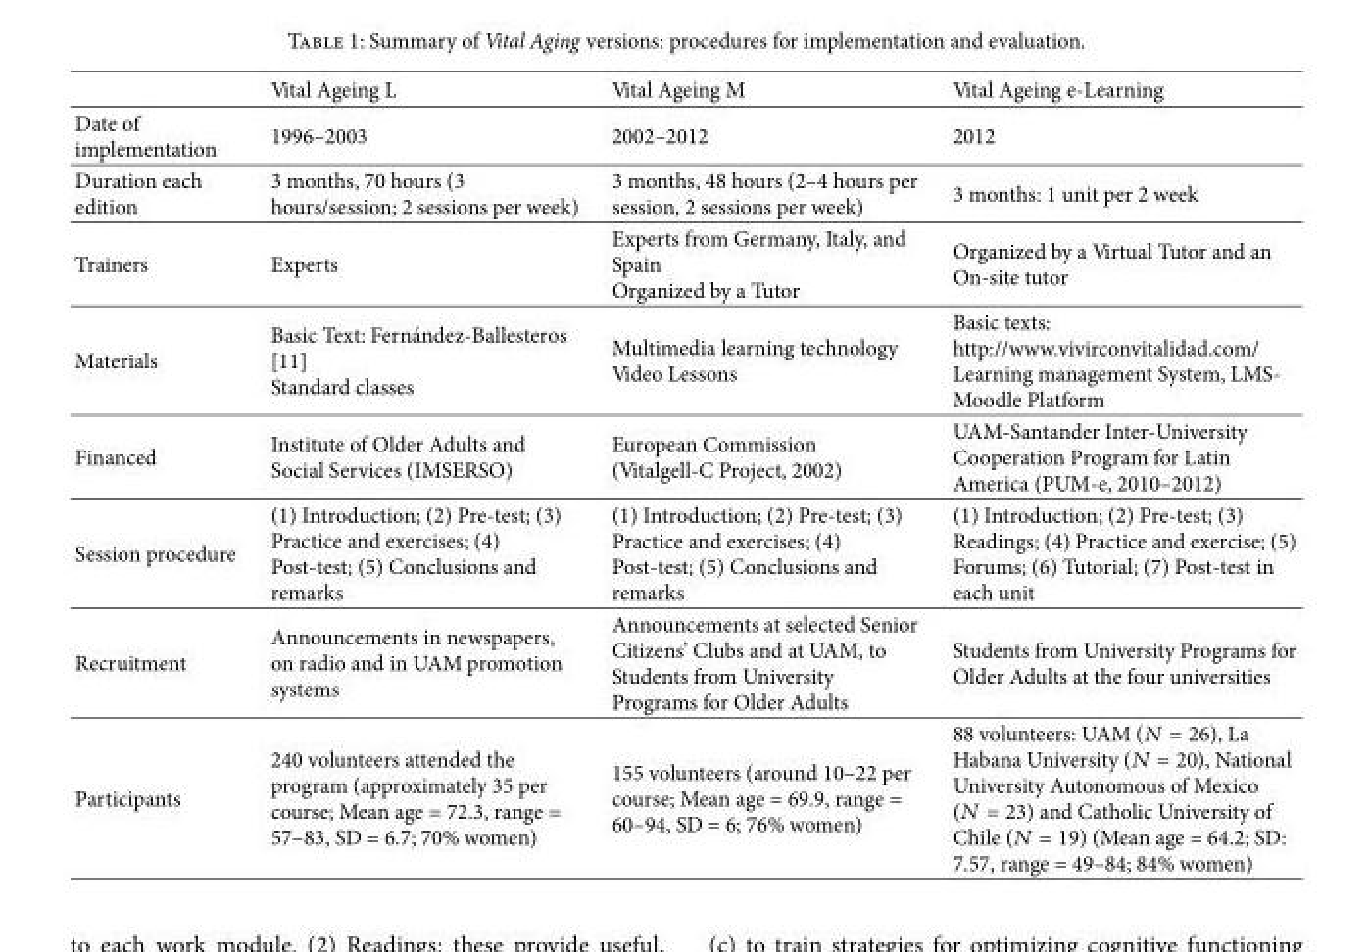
<table><thead><tr><td></td><td>Vital Ageing L</td><td>Vital Ageing M</td><td>Vital Ageing e-Learning</td></tr></thead><tbody><tr><td>Date of implementation</td><td>1996–2003</td><td>2002–2012</td><td>2012</td></tr><tr><td>Duration each edition</td><td>3 months, 70 hours (3 hours/session; 2 sessions per week)</td><td>3 months, 48 hours (2–4 hours per session, 2 sessions per week)</td><td>3 months: 1 unit per 2 week</td></tr><tr><td>Trainers</td><td>Experts</td><td>Experts from Germany, Italy, and Spain Organized by a Tutor</td><td>Organized by a Virtual Tutor and an On-site tutor</td></tr><tr><td>Materials</td><td>Basic Text: Fernández-Ballesteros [11] Standard classes</td><td>Multimedia learning technology Video Lessons</td><td>Basic texts: http://www.vivirconvitalidad.com/ Learning management System, LMS- Moodle Platform</td></tr><tr><td>Financed</td><td>Institute of Older Adults and Social Services (IMSERSO)</td><td>European Commission (Vitalgell-C Project, 2002)</td><td>UAM-Santander Inter-University Cooperation Program for Latin America (PUM-e, 2010–2012)</td></tr><tr><td>Session procedure</td><td>(1) Introduction; (2) Pre-test; (3) Practice and exercises; (4) Post-test; (5) Conclusions and remarks</td><td>(1) Introduction; (2) Pre-test; (3) Practice and exercises; (4) Post-test; (5) Conclusions and remarks</td><td>(1) Introduction; (2) Pre-test; (3) Readings; (4) Practice and exercise; (5) Forums; (6) Tutorial; (7) Post-test in each unit</td></tr><tr><td>Recruitment</td><td>Announcements in newspapers, on radio and in UAM promotion systems</td><td>Announcements at selected Senior Citizens’ Clubs and at UAM, to Students from University Programs for Older Adults</td><td>Students from University Programs for Older Adults at the four universities</td></tr><tr><td>Participants</td><td>240 volunteers attended the program (approximately 35 per course; Mean age = 72.3, range = 57–83, SD = 6.7; 70% women)</td><td>155 volunteers (around 10–22 per course; Mean age = 69.9, range = 60–94, SD = 6; 76% women)</td><td>88 volunteers: UAM (𝑁𝑁 𝑁 𝑁𝑁), La Habana University (𝑁𝑁 𝑁 𝑁𝑁), National University Autonomous of Mexico (𝑁𝑁 𝑁 𝑁𝑁) and Catholic University of Chile (𝑁𝑁 𝑁 𝑁𝑁) (Mean age = 64.2; SD: 7.57, range = 49–84; 84% women)</td></tr></tbody></table>